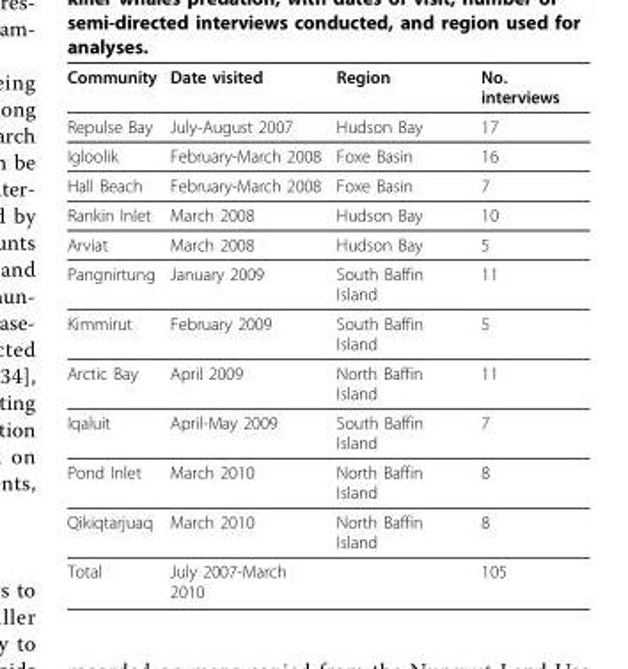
<table><thead><tr><td>Community</td><td>Date visited</td><td>Region</td><td>No. interviews</td></tr></thead><tbody><tr><td>Repulse Bay</td><td>July-August 2007</td><td>Hudson Bay</td><td>17</td></tr><tr><td>Igloolik</td><td>February-March 2008</td><td>Foxe Basin</td><td>16</td></tr><tr><td>Hall Beach</td><td>February-March 2008</td><td>Foxe Basin</td><td>7</td></tr><tr><td>Rankin Inlet</td><td>March 2008</td><td>Hudson Bay</td><td>10</td></tr><tr><td>Arviat</td><td>March 2008</td><td>Hudson Bay</td><td>5</td></tr><tr><td>Pangnirtung</td><td>January 2009</td><td>South Baffin Island</td><td>11</td></tr><tr><td>Kimmirut</td><td>February 2009</td><td>South Baffin Island</td><td>5</td></tr><tr><td>Arctic Bay</td><td>April 2009</td><td>North Baffin Island</td><td>11</td></tr><tr><td>Iqaluit</td><td>April-May 2009</td><td>South Baffin Island</td><td>7</td></tr><tr><td>Pond Inlet</td><td>March 2010</td><td>North Baffin Island</td><td>8</td></tr><tr><td>Qikiqtarjuaq</td><td>March 2010</td><td>North Baffin Island</td><td>8</td></tr><tr><td>Total</td><td>July 2007-March 2010</td><td></td><td>105</td></tr></tbody></table>